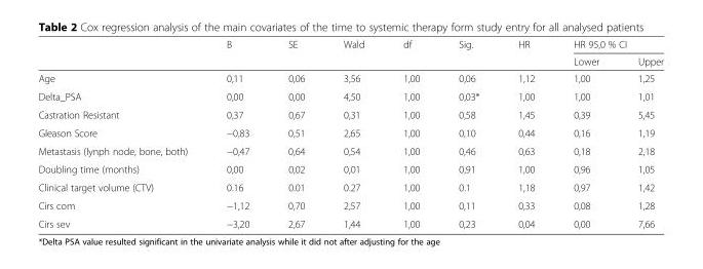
<table><thead><tr><td rowspan="2"></td><td rowspan="2">B</td><td rowspan="2">SE</td><td rowspan="2">Wald</td><td rowspan="2">df</td><td rowspan="2">Sig.</td><td rowspan="2">HR</td><td colspan="2">HR 95,0 % CI</td></tr><tr><td>Lower</td><td>Upper</td></tr></thead><tbody><tr><td>Age</td><td>0,11</td><td>0,06</td><td>3,56</td><td>1,00</td><td>0,06</td><td>1,12</td><td>1,00</td><td>1,25</td></tr><tr><td>Delta_PSA</td><td>0,00</td><td>0,00</td><td>4,50</td><td>1,00</td><td>0,03*</td><td>1,00</td><td>1,00</td><td>1,01</td></tr><tr><td>Castration Resistant</td><td>0,37</td><td>0,67</td><td>0,31</td><td>1,00</td><td>0,58</td><td>1,45</td><td>0,39</td><td>5,45</td></tr><tr><td>Gleason Score</td><td>−0,83</td><td>0,51</td><td>2,65</td><td>1,00</td><td>0,10</td><td>0,44</td><td>0,16</td><td>1,19</td></tr><tr><td>Metastasis (lynph node, bone, both)</td><td>−0,47</td><td>0,64</td><td>0,54</td><td>1,00</td><td>0,46</td><td>0,63</td><td>0,18</td><td>2,18</td></tr><tr><td>Doubling time (months)</td><td>0,00</td><td>0,02</td><td>0,01</td><td>1,00</td><td>0,91</td><td>1,00</td><td>0,96</td><td>1,05</td></tr><tr><td>Clinical target volume (CTV)</td><td>0.16</td><td>0.01</td><td>0.27</td><td>1,00</td><td>0.1</td><td>1,18</td><td>0,97</td><td>1,42</td></tr><tr><td>Cirs com</td><td>−1,12</td><td>0,70</td><td>2,57</td><td>1,00</td><td>0,11</td><td>0,33</td><td>0,08</td><td>1,28</td></tr><tr><td>Cirs sev</td><td>−3,20</td><td>2,67</td><td>1,44</td><td>1,00</td><td>0,23</td><td>0,04</td><td>0,00</td><td>7,66</td></tr></tbody></table>